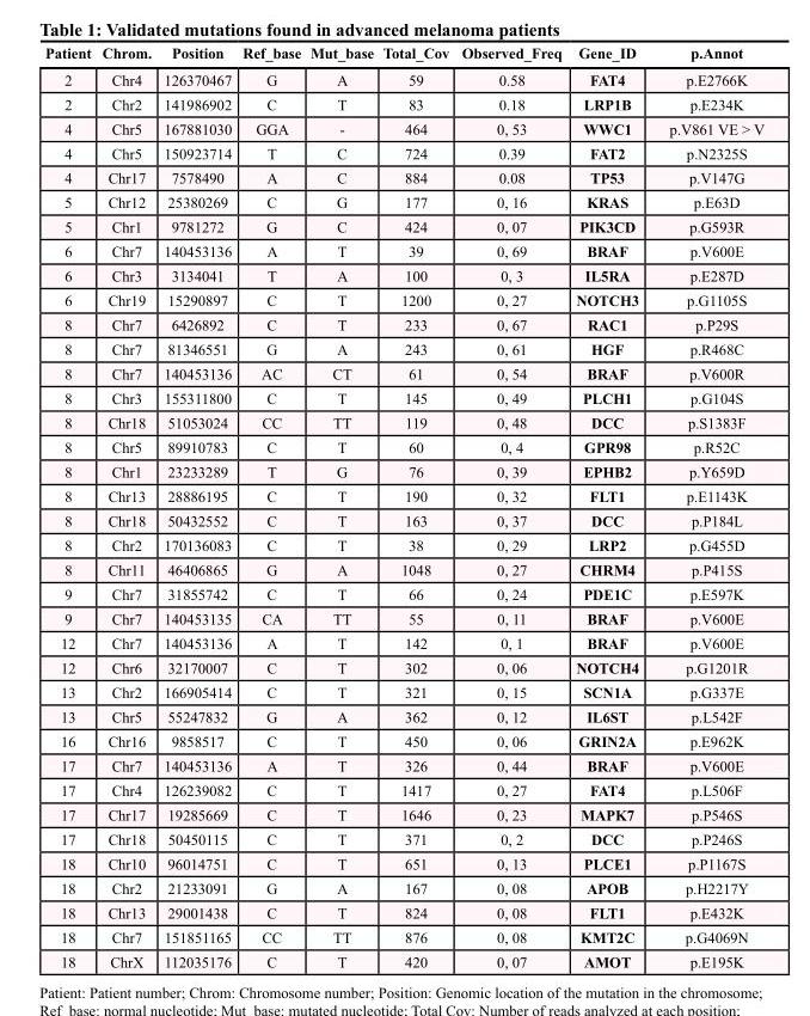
<table><thead><tr><td>Patient</td><td>Chrom.</td><td>Position</td><td>Ref_base</td><td>Mut_base</td><td>Total_Cov</td><td>Observed_Freq</td><td>Gene_ID</td><td>p.Annot</td></tr></thead><tbody><tr><td>2</td><td>Chr4</td><td>126370467</td><td>G</td><td>A</td><td>59</td><td>0.58</td><td>FAT4</td><td>p.E2766K</td></tr><tr><td>2</td><td>Chr2</td><td>141986902</td><td>C</td><td>T</td><td>83</td><td>0.18</td><td>LRP1B</td><td>p.E234K</td></tr><tr><td>4</td><td>Chr5</td><td>167881030</td><td>GGA</td><td>-</td><td>464</td><td>0, 53</td><td>WWC1</td><td>p.V861 VE &gt; V</td></tr><tr><td>4</td><td>Chr5</td><td>150923714</td><td>T</td><td>C</td><td>724</td><td>0.39</td><td>FAT2</td><td>p.N2325S</td></tr><tr><td>4</td><td>Chr17</td><td>7578490</td><td>A</td><td>C</td><td>884</td><td>0.08</td><td>TP53</td><td>p.V147G</td></tr><tr><td>5</td><td>Chr12</td><td>25380269</td><td>C</td><td>G</td><td>177</td><td>0, 16</td><td>KRAS</td><td>p.E63D</td></tr><tr><td>5</td><td>Chr1</td><td>9781272</td><td>G</td><td>C</td><td>424</td><td>0, 07</td><td>PIK3CD</td><td>p.G593R</td></tr><tr><td>6</td><td>Chr7</td><td>140453136</td><td>A</td><td>T</td><td>39</td><td>0, 69</td><td>BRAF</td><td>p.V600E</td></tr><tr><td>6</td><td>Chr3</td><td>3134041</td><td>T</td><td>A</td><td>100</td><td>0, 3</td><td>IL5RA</td><td>p.E287D</td></tr><tr><td>6</td><td>Chr19</td><td>15290897</td><td>C</td><td>T</td><td>1200</td><td>0, 27</td><td>NOTCH3</td><td>p.G1105S</td></tr><tr><td>8</td><td>Chr7</td><td>6426892</td><td>C</td><td>T</td><td>233</td><td>0, 67</td><td>RAC1</td><td>p.P29S</td></tr><tr><td>8</td><td>Chr7</td><td>81346551</td><td>G</td><td>A</td><td>243</td><td>0, 61</td><td>HGF</td><td>p.R468C</td></tr><tr><td>8</td><td>Chr7</td><td>140453136</td><td>AC</td><td>CT</td><td>61</td><td>0, 54</td><td>BRAF</td><td>p.V600R</td></tr><tr><td>8</td><td>Chr3</td><td>155311800</td><td>C</td><td>T</td><td>145</td><td>0, 49</td><td>PLCH1</td><td>p.G104S</td></tr><tr><td>8</td><td>Chr18</td><td>51053024</td><td>CC</td><td>TT</td><td>119</td><td>0, 48</td><td>DCC</td><td>p.S1383F</td></tr><tr><td>8</td><td>Chr5</td><td>89910783</td><td>C</td><td>T</td><td>60</td><td>0, 4</td><td>GPR98</td><td>p.R52C</td></tr><tr><td>8</td><td>Chr1</td><td>23233289</td><td>T</td><td>G</td><td>76</td><td>0, 39</td><td>EPHB2</td><td>p.Y659D</td></tr><tr><td>8</td><td>Chr13</td><td>28886195</td><td>C</td><td>T</td><td>190</td><td>0, 32</td><td>FLT1</td><td>p.E1143K</td></tr><tr><td>8</td><td>Chr18</td><td>50432552</td><td>C</td><td>T</td><td>163</td><td>0, 37</td><td>DCC</td><td>p.P184L</td></tr><tr><td>8</td><td>Chr2</td><td>170136083</td><td>C</td><td>T</td><td>38</td><td>0, 29</td><td>LRP2</td><td>p.G455D</td></tr><tr><td>8</td><td>Chr11</td><td>46406865</td><td>G</td><td>A</td><td>1048</td><td>0, 27</td><td>CHRM4</td><td>p.P415S</td></tr><tr><td>9</td><td>Chr7</td><td>31855742</td><td>C</td><td>T</td><td>66</td><td>0, 24</td><td>PDE1C</td><td>p.E597K</td></tr><tr><td>9</td><td>Chr7</td><td>140453135</td><td>CA</td><td>TT</td><td>55</td><td>0, 11</td><td>BRAF</td><td>p.V600E</td></tr><tr><td>12</td><td>Chr7</td><td>140453136</td><td>A</td><td>T</td><td>142</td><td>0, 1</td><td>BRAF</td><td>p.V600E</td></tr><tr><td>12</td><td>Chr6</td><td>32170007</td><td>C</td><td>T</td><td>302</td><td>0, 06</td><td>NOTCH4</td><td>p.G1201R</td></tr><tr><td>13</td><td>Chr2</td><td>166905414</td><td>C</td><td>T</td><td>321</td><td>0, 15</td><td>SCN1A</td><td>p.G337E</td></tr><tr><td>13</td><td>Chr5</td><td>55247832</td><td>G</td><td>A</td><td>362</td><td>0, 12</td><td>IL6ST</td><td>p.L542F</td></tr><tr><td>16</td><td>Chr16</td><td>9858517</td><td>C</td><td>T</td><td>450</td><td>0, 06</td><td>GRIN2A</td><td>p.E962K</td></tr><tr><td>17</td><td>Chr7</td><td>140453136</td><td>A</td><td>T</td><td>326</td><td>0, 44</td><td>BRAF</td><td>p.V600E</td></tr><tr><td>17</td><td>Chr4</td><td>126239082</td><td>C</td><td>T</td><td>1417</td><td>0, 27</td><td>FAT4</td><td>p.L506F</td></tr><tr><td>17</td><td>Chr17</td><td>19285669</td><td>C</td><td>T</td><td>1646</td><td>0, 23</td><td>MAPK7</td><td>p.P546S</td></tr><tr><td>17</td><td>Chr18</td><td>50450115</td><td>C</td><td>T</td><td>371</td><td>0, 2</td><td>DCC</td><td>p.P246S</td></tr><tr><td>18</td><td>Chr10</td><td>96014751</td><td>C</td><td>T</td><td>651</td><td>0, 13</td><td>PLCE1</td><td>p.P1167S</td></tr><tr><td>18</td><td>Chr2</td><td>21233091</td><td>G</td><td>A</td><td>167</td><td>0, 08</td><td>APOB</td><td>p.H2217Y</td></tr><tr><td>18</td><td>Chr13</td><td>29001438</td><td>C</td><td>T</td><td>824</td><td>0, 08</td><td>FLT1</td><td>p.E432K</td></tr><tr><td>18</td><td>Chr7</td><td>151851165</td><td>CC</td><td>TT</td><td>876</td><td>0, 08</td><td>KMT2C</td><td>p.G4069N</td></tr><tr><td>18</td><td>ChrX</td><td>112035176</td><td>C</td><td>T</td><td>420</td><td>0, 07</td><td>AMOT</td><td>p.E195K</td></tr></tbody></table>